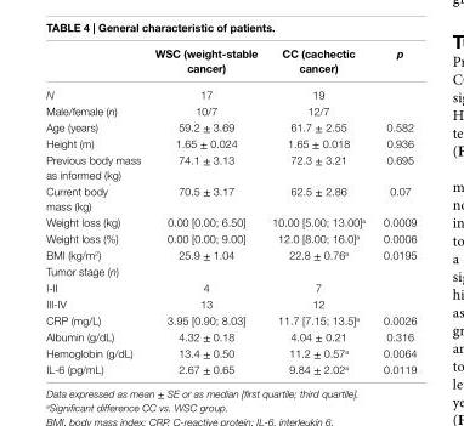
<table><thead><tr><td></td><td>Wsc (weight-stable cancer)</td><td>cc (cachectic cancer)</td><td>p</td></tr></thead><tbody><tr><td>N</td><td>17</td><td>19</td><td></td></tr><tr><td>Male/female (n)</td><td>10/7</td><td>12/7</td><td></td></tr><tr><td>Age (years)</td><td>59.2 ± 3.69</td><td>61.7 ± 2.55</td><td>0.582</td></tr><tr><td>Height (m)</td><td>1.65 ± 0.024</td><td>1.65 ± 0.018</td><td>0.936</td></tr><tr><td>Previous body mass as informed (kg)</td><td>74.1 ± 3.13</td><td>72.3 ± 3.21</td><td>0.695</td></tr><tr><td>Current body mass (kg)</td><td>70.5 ± 3.17</td><td>62.5 ± 2.86</td><td>0.07</td></tr><tr><td>Weight loss (kg)</td><td>0.00 [0.00; 6.50]</td><td>10.00 [5.00; 13.00]<sup>a</sup></td><td>0.0009</td></tr><tr><td>Weight loss (%)</td><td>0.00 [0.00; 9.00]</td><td>12.0 [8.00; 16.0]<sup>a</sup></td><td>0.0006</td></tr><tr><td>BMI (kg/m<sup>2</sup>)</td><td>25.9 ± 1.04</td><td>22.8 ± 0.76<sup>a</sup></td><td>0.0195</td></tr><tr><td colspan="4">Tumor stage (n)</td></tr><tr><td>I-II</td><td>4</td><td>7</td><td></td></tr><tr><td>III-IV</td><td>13</td><td>12</td><td></td></tr><tr><td>CRP (mg/L)</td><td>3.95 [0.90; 8.03]</td><td>11.7 [7.15; 13.5]<sup>a</sup></td><td>0.0026</td></tr><tr><td>Albumin (g/dL)</td><td>4.32 ± 0.18</td><td>4.04 ± 0.21</td><td>0.316</td></tr><tr><td>Hemoglobin (g/dL)</td><td>13.4 ± 0.50</td><td>11.2 ± 0.57<sup>a</sup></td><td>0.0064</td></tr><tr><td>IL-6 (pg/mL)</td><td>2.67 ± 0.65</td><td>9.84 ± 2.02<sup>a</sup></td><td>0.0119</td></tr></tbody></table>